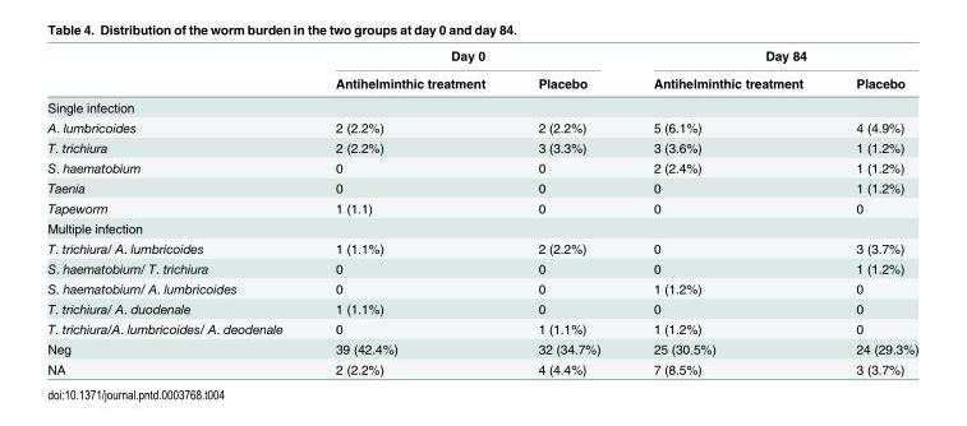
<table><thead><tr><td rowspan="2"></td><td colspan="2">Day 0</td><td colspan="2">Day 84</td></tr><tr><td>Antihelminthic treatment</td><td>Placebo</td><td>Antihelminthic treatment</td><td>Placebo</td></tr></thead><tbody><tr><td colspan="5">Single infection</td></tr><tr><td>A. lumbricoides</td><td>2 (2.2%)</td><td>2 (2.2%)</td><td>5 (6.1%)</td><td>4 (4.9%)</td></tr><tr><td>T. trichiura</td><td>2 (2.2%)</td><td>3 (3.3%)</td><td>3 (3.6%)</td><td>1 (1.2%)</td></tr><tr><td>S. haematobium</td><td>0</td><td>0</td><td>2 (2.4%)</td><td>1 (1.2%)</td></tr><tr><td>Taenia</td><td>0</td><td>0</td><td>0</td><td>1 (1.2%)</td></tr><tr><td>Tapeworm</td><td>1 (1.1)</td><td>0</td><td>0</td><td>0</td></tr><tr><td colspan="5">Multiple infection</td></tr><tr><td>T. trichiura/ A. lumbricoides</td><td>1 (1.1%)</td><td>2 (2.2%)</td><td>0</td><td>3 (3.7%)</td></tr><tr><td>S. haematobium/ T. trichiura</td><td>0</td><td>0</td><td>0</td><td>1 (1.2%)</td></tr><tr><td>S. haematobium/ A. lumbricoides</td><td>0</td><td>0</td><td>1 (1.2%)</td><td>0</td></tr><tr><td>T. trichiura/ A. duodenale</td><td>1 (1.1%)</td><td>0</td><td>0</td><td>0</td></tr><tr><td>T. trichiura/A. lumbricoides/ A. deodenale</td><td>0</td><td>1 (1.1%)</td><td>1 (1.2%)</td><td>0</td></tr><tr><td>Neg</td><td>39 (42.4%)</td><td>32 (34.7%)</td><td>25 (30.5%)</td><td>24 (29.3%)</td></tr><tr><td>NA</td><td>2 (2.2%)</td><td>4 (4.4%)</td><td>7 (8.5%)</td><td>3 (3.7%)</td></tr></tbody></table>